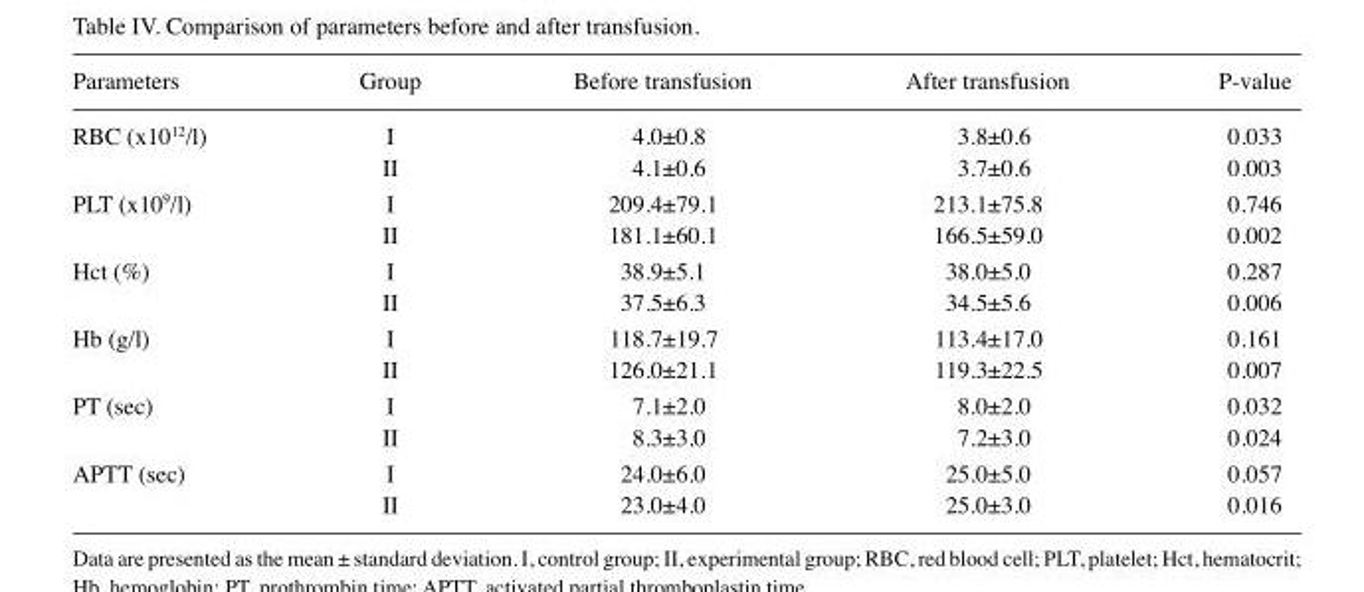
<table><thead><tr><td>Parameters</td><td>Group</td><td>Before transfusion</td><td>After transfusion</td><td>P-value</td></tr></thead><tbody><tr><td rowspan="2">RBC (x1012/l)</td><td>I</td><td>4.0±0.8</td><td>3.8±0.6</td><td>0.033</td></tr><tr><td>II</td><td>4.1±0.6</td><td>3.7±0.6</td><td>0.003</td></tr><tr><td rowspan="2">PLT (x109/l)</td><td>I</td><td>209.4±79.1</td><td>213.1±75.8</td><td>0.746</td></tr><tr><td>II</td><td>181.1±60.1</td><td>166.5±59.0</td><td>0.002</td></tr><tr><td rowspan="2">Hct (%)</td><td>I</td><td>38.9±5.1</td><td>38.0±5.0</td><td>0.287</td></tr><tr><td>II</td><td>37.5±6.3</td><td>34.5±5.6</td><td>0.006</td></tr><tr><td rowspan="2">Hb (g/l)</td><td>I</td><td>118.7±19.7</td><td>113.4±17.0</td><td>0.161</td></tr><tr><td>II</td><td>126.0±21.1</td><td>119.3±22.5</td><td>0.007</td></tr><tr><td rowspan="2">PT (sec)</td><td>I</td><td>7.1±2.0</td><td>8.0±2.0</td><td>0.032</td></tr><tr><td>II</td><td>8.3±3.0</td><td>7.2±3.0</td><td>0.024</td></tr><tr><td rowspan="2">APTT (sec)</td><td>I</td><td>24.0±6.0</td><td>25.0±5.0</td><td>0.057</td></tr><tr><td>II</td><td>23.0±4.0</td><td>25.0±3.0</td><td>0.016</td></tr></tbody></table>